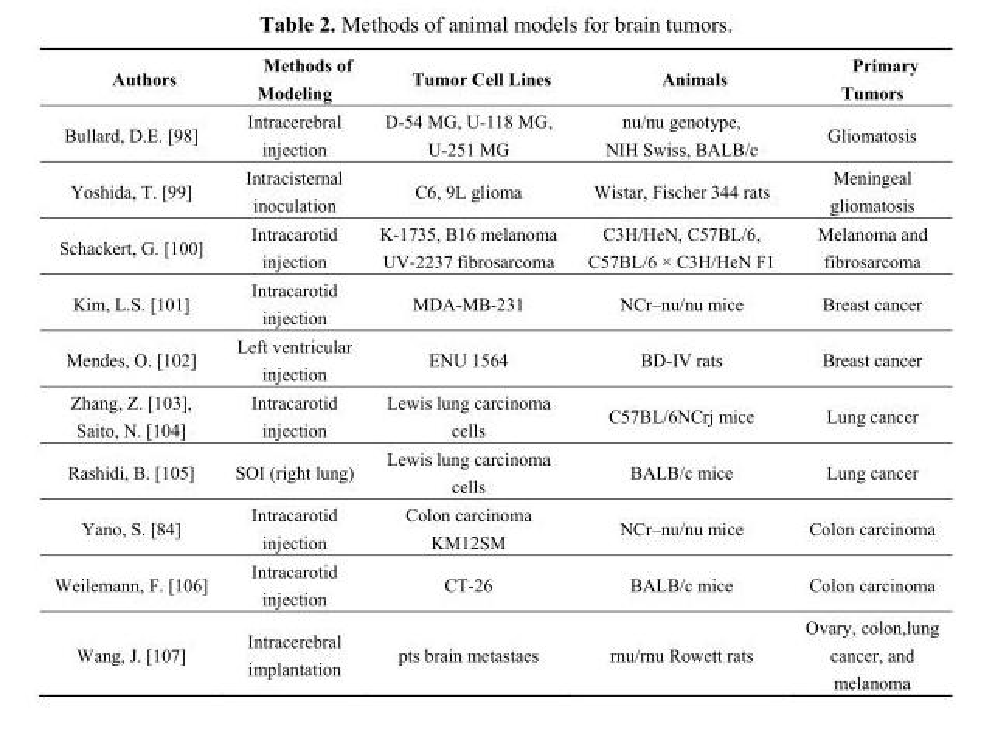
<table><thead><tr><td>Authors</td><td>Methods of Modeling</td><td>Tumor Cell Lines</td><td>Animals</td><td>Primary Tumors</td></tr></thead><tbody><tr><td>Bullard, D.E. [98]</td><td>Intracerebral injection</td><td>D-54 MG, U-118 MG, U-251 MG</td><td>nu/nu genotype, NIH Swiss, BALB/c</td><td>Gliomatosis</td></tr><tr><td>Yoshida, T. [99]</td><td>Intracisternal inoculation</td><td>C6, 9L glioma</td><td>Wistar, Fischer 344 rats</td><td>Meningeal gliomatosis</td></tr><tr><td>Schackert, G. [100]</td><td>Intracarotid injection</td><td>K-1735, B16 melanoma UV-2237 fibrosarcoma</td><td>C3H/HeN, C57BL/6, C57BL/6 × C3H/HeN F1</td><td>Melanoma and fibrosarcoma</td></tr><tr><td>Kim, L.S. [101]</td><td>Intracarotid injection</td><td>MDA-MB-231</td><td>NCr–nu/nu mice</td><td>Breast cancer</td></tr><tr><td>Mendes, O. [102]</td><td>Left ventricular injection</td><td>ENU 1564</td><td>BD-IV rats</td><td>Breast cancer</td></tr><tr><td>Zhang, Z. [103], Saito, N. [104]</td><td>Intracarotid injection</td><td>Lewis lung carcinoma cells</td><td>C57BL/6NCrj mice</td><td>Lung cancer</td></tr><tr><td>Rashidi, B. [105]</td><td>SOI (right lung)</td><td>Lewis lung carcinoma cells</td><td>BALB/c mice</td><td>Lung cancer</td></tr><tr><td>Yano, S. [84]</td><td>Intracarotid injection</td><td>Colon carcinoma KM12SM</td><td>NCr–nu/nu mice</td><td>Colon carcinoma</td></tr><tr><td>Weilemann, F. [106]</td><td>Intracarotid injection</td><td>CT-26</td><td>BALB/c mice</td><td>Colon carcinoma</td></tr><tr><td>Wang, J. [107]</td><td>Intracerebral implantation</td><td>pts brain metastaes</td><td>rnu/rnu Rowett rats</td><td>Ovary, colon,lung cancer, and melanoma</td></tr></tbody></table>